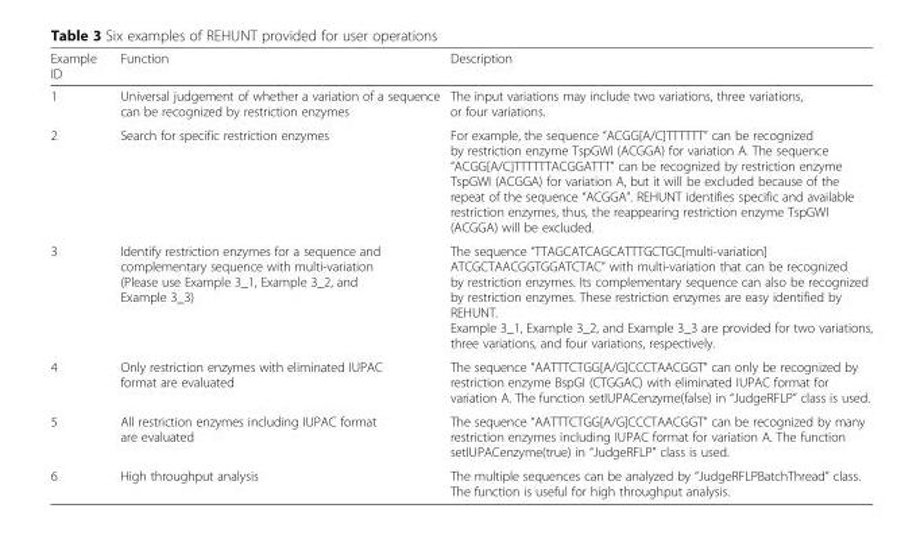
<table><thead><tr><td>Example ID</td><td>Function</td><td>Description</td></tr></thead><tbody><tr><td>1</td><td>Universal judgement of whether a variation of a sequence can be recognized by restriction enzymes</td><td>The input variations may include two variations, three variations, or four variations.</td></tr><tr><td>2</td><td>Search for specific restriction enzymes</td><td>For example, the sequence “ACGG[A/C]TTTTTT” can be recognized by restriction enzyme TspGWI (ACGGA) for variation A. The sequence “ACGG[A/C]TTTTTTACGGATTT” can be recognized by restriction enzyme TspGWI (ACGGA) for variation A, but it will be excluded because of the repeat of the sequence “ACGGA”. REHUNT identifies specific and available restriction enzymes, thus, the reappearing restriction enzyme TspGWI (ACGGA) will be excluded.</td></tr><tr><td>3</td><td>Identify restriction enzymes for a sequence and complementary sequence with multi-variation (Please use Example 3_1, Example 3_2, and Example 3_3)</td><td>The sequence “TTAGCATCAGCATTTGCTGC[multi-variation] ATCGCTAACGGTGGATCTAC” with multi-variation that can be recognized by restriction enzymes. Its complementary sequence can also be recognized by restriction enzymes. These restriction enzymes are easy identified by REHUNT. Example 3_1, Example 3_2, and Example 3_3 are provided for two variations, three variations, and four variations, respectively.</td></tr><tr><td>4</td><td>Only restriction enzymes with eliminated IUPAC format are evaluated</td><td>The sequence “AATTTCTGG[A/G]CCCTAACGGT” can only be recognized by restriction enzyme BspGI (CTGGAC) with eliminated IUPAC format for variation A. The function setIUPACenzyme(false) in “JudgeRFLP” class is used.</td></tr><tr><td>5</td><td>All restriction enzymes including IUPAC format are evaluated</td><td>The sequence “AATTTCTGG[A/G]CCCTAACGGT” can be recognized by many restriction enzymes including IUPAC format for variation A. The function setIUPACenzyme(true) in “JudgeRFLP” class is used.</td></tr><tr><td>6</td><td>High throughput analysis</td><td>The multiple sequences can be analyzed by “JudgeRFLPBatchThread” class. The function is useful for high throughput analysis.</td></tr></tbody></table>